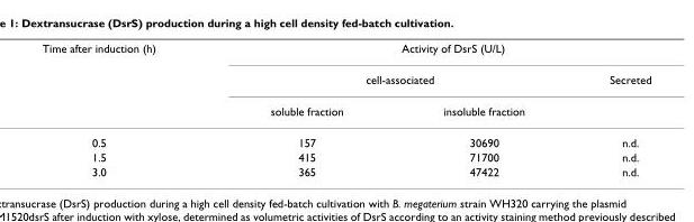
<table><thead><tr><td rowspan="3">Time after induction (h)</td><td colspan="3">Activity of DsrS (U/L)</td></tr><tr><td colspan="2">cell-associated</td><td rowspan="2">Secreted</td></tr><tr><td>soluble fraction</td><td>insoluble fraction</td></tr></thead><tbody><tr><td>0.5</td><td>157</td><td>30690</td><td>n.d.</td></tr><tr><td>1.5</td><td>415</td><td>71700</td><td>n.d.</td></tr><tr><td>3.0</td><td>365</td><td>47422</td><td>n.d.</td></tr></tbody></table>